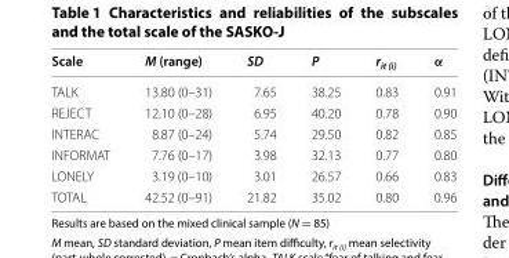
<table><thead><tr><td>Scale</td><td>M (range)</td><td>SD</td><td>P</td><td>r<sub>it (i)</sub></td><td>α</td></tr></thead><tbody><tr><td>TALK</td><td>13.80 (0–31)</td><td>7.65</td><td>38.25</td><td>0.83</td><td>0.91</td></tr><tr><td>REJECT</td><td>12.10 (0–28)</td><td>6.95</td><td>40.20</td><td>0.78</td><td>0.90</td></tr><tr><td>INTERAC</td><td>8.87 (0–24)</td><td>5.74</td><td>29.50</td><td>0.82</td><td>0.85</td></tr><tr><td>INFORMAT</td><td>7.76 (0–17)</td><td>3.98</td><td>32.13</td><td>0.77</td><td>0.80</td></tr><tr><td>LONELY</td><td>3.19 (0–10)</td><td>3.01</td><td>26.57</td><td>0.66</td><td>0.83</td></tr><tr><td>TOTAL</td><td>42.52 (0–91)</td><td>21.82</td><td>35.02</td><td>0.80</td><td>0.96</td></tr></tbody></table>